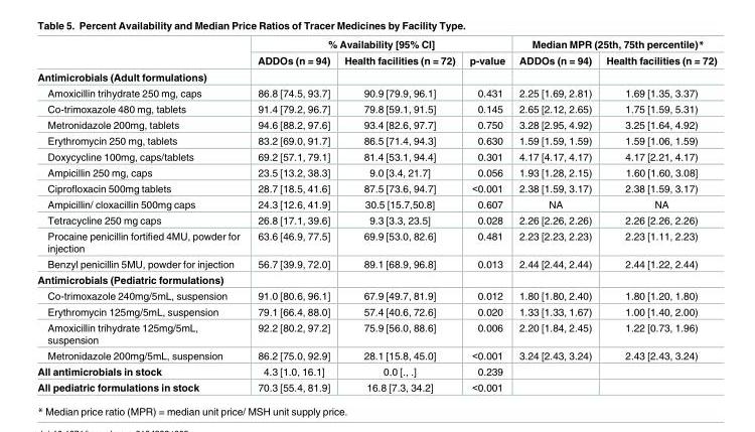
<table><thead><tr><td rowspan="2"></td><td colspan="3">% Availability [95% CI]</td><td colspan="2">Median MPR (25th, 75th percentile)*</td></tr><tr><td>ADDOs (n = 94)</td><td>Health facilities (n = 72)</td><td>p-value</td><td>ADDOs (n = 94)</td><td>Health facilities (n = 72)</td></tr></thead><tbody><tr><td colspan="6">Antimicrobials (Adult formulations)</td></tr><tr><td>Amoxicillin trihydrate 250 mg, caps</td><td>86.8 [74.5, 93.7]</td><td>90.9 [79.9, 96.1]</td><td>0.431</td><td>2.25 [1.69, 2.81)</td><td>1.69 [1.35, 3.37)</td></tr><tr><td>Co-trimoxazole 480 mg, tablets</td><td>91.4 [79.2, 96.7]</td><td>79.8 [59.1, 91.5]</td><td>0.145</td><td>2.65 [2.12, 2.65)</td><td>1.75 [1.59, 5.31)</td></tr><tr><td>Metronidazole 200mg, tablets</td><td>94.6 [88.2, 97.6]</td><td>93.4 [82.6, 97.7]</td><td>0.750</td><td>3.28 [2.95, 4.92)</td><td>3.25 [1.64, 4.92)</td></tr><tr><td>Erythromycin 250 mg, tablets</td><td>83.2 [69.0, 91.7]</td><td>86.5 [71.4, 94.3]</td><td>0.630</td><td>1.59 [1.59, 1.59)</td><td>1.59 [1.06, 1.59)</td></tr><tr><td>Doxycycline 100mg, caps/tablets</td><td>69.2 [57.1, 79.1]</td><td>81.4 [53.1, 94.4]</td><td>0.301</td><td>4.17 [4.17, 4.17)</td><td>4.17 [2.21, 4.17)</td></tr><tr><td>Ampicillin 250 mg, caps</td><td>23.5 [13.2, 38.3]</td><td>9.0 [3.4, 21.7]</td><td>0.056</td><td>1.93 [1.28, 2.15)</td><td>1.60 [1.60, 3.08]</td></tr><tr><td>Ciprofloxacin 500mg tablets</td><td>28.7 [18.5, 41.6]</td><td>87.5 [73.6, 94.7]</td><td>&lt;0.001</td><td>2.38 [1.59, 3.17)</td><td>2.38 [1.59, 3.17)</td></tr><tr><td>Ampicillin/ cloxacillin 500mg caps</td><td>24.3 [12.6, 41.9]</td><td>30.5 [15.7,50.8]</td><td>0.607</td><td>NA</td><td>NA</td></tr><tr><td>Tetracycline 250 mg caps</td><td>26.8 [17.1, 39.6]</td><td>9.3 [3.3, 23.5]</td><td>0.028</td><td>2.26 [2.26, 2.26)</td><td>2.26 [2.26, 2.26)</td></tr><tr><td>Procaine penicillin fortified 4MU, powder for injection</td><td>63.6 [46.9, 77.5]</td><td>69.9 [53.0, 82.6]</td><td>0.481</td><td>2.23 [2.23, 2.23)</td><td>2.23 [1.11, 2.23)</td></tr><tr><td>Benzyl penicillin 5MU, powder for injection</td><td>56.7 [39.9, 72.0]</td><td>89.1 [68.9, 96.8]</td><td>0.013</td><td>2.44 [2.44, 2.44)</td><td>2.44 [1.22, 2.44)</td></tr><tr><td colspan="6">Antimicrobials (Pediatric formulations)</td></tr><tr><td>Co-trimoxazole 240mg/5mL, suspension</td><td>91.0 [80.6, 96.1]</td><td>67.9 [49.7, 81.9]</td><td>0.012</td><td>1.80 [1.80, 2.40)</td><td>1.80 [1.20, 1.80)</td></tr><tr><td>Erythromycin 125mg/5mL, suspension</td><td>79.1 [66.4, 88.0]</td><td>57.4 [40.6, 72.6]</td><td>0.020</td><td>1.33 [1.33, 1.67)</td><td>1.00 [1.40, 2.00)</td></tr><tr><td>Amoxicillin trihydrate 125mg/5mL, suspension</td><td>92.2 [80.2, 97.2]</td><td>75.9 [56.0, 88.6]</td><td>0.006</td><td>2.20 [1.84, 2.45)</td><td>1.22 [0.73, 1.96)</td></tr><tr><td>Metronidazole 200mg/5mL, suspension</td><td>86.2 [75.0, 92.9]</td><td>28.1 [15.8, 45.0]</td><td>&lt;0.001</td><td>3.24 [2.43, 3.24)</td><td>2.43 [2.43, 3.24)</td></tr><tr><td>All antimicrobials in stock</td><td>4.3 [1.0, 16.1]</td><td>0.0 [., .]</td><td>0.239</td><td></td><td></td></tr><tr><td>All pediatric formulations in stock</td><td>70.3 [55.4, 81.9]</td><td>16.8 [7.3, 34.2]</td><td>&lt;0.001</td><td></td><td></td></tr></tbody></table>